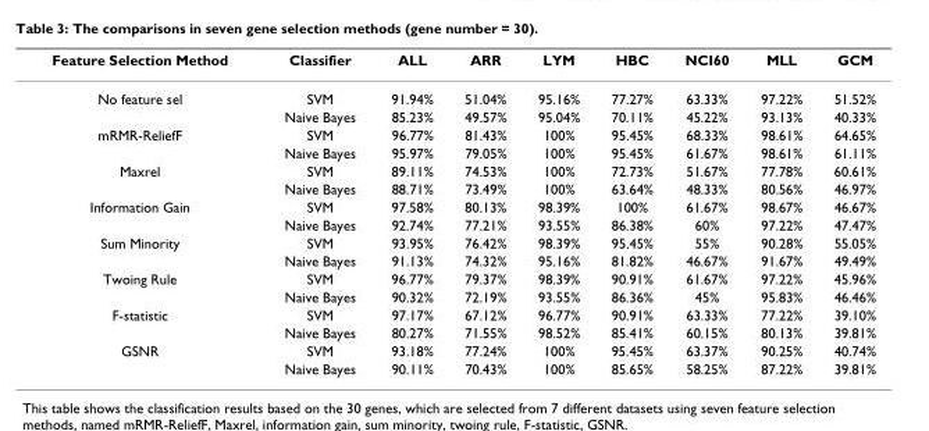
<table><thead><tr><td>Feature Selection Method</td><td>Classifier</td><td>ALL</td><td>ARR</td><td>LYM</td><td>HBC</td><td>NCI60</td><td>MLL</td><td>GCM</td></tr></thead><tbody><tr><td rowspan="2">No feature sel</td><td>SVM</td><td>91.94%</td><td>51.04%</td><td>95.16%</td><td>77.27%</td><td>63.33%</td><td>97.22%</td><td>51.52%</td></tr><tr><td>Naive Bayes</td><td>85.23%</td><td>49.57%</td><td>95.04%</td><td>70.11%</td><td>45.22%</td><td>93.13%</td><td>40.33%</td></tr><tr><td rowspan="2">mRMR-ReliefF</td><td>SVM</td><td>96.77%</td><td>81.43%</td><td>100%</td><td>95.45%</td><td>68.33%</td><td>98.61%</td><td>64.65%</td></tr><tr><td>Naive Bayes</td><td>95.97%</td><td>79.05%</td><td>100%</td><td>95.45%</td><td>61.67%</td><td>98.61%</td><td>61.11%</td></tr><tr><td rowspan="2">Maxrel</td><td>SVM</td><td>89.11%</td><td>74.53%</td><td>100%</td><td>72.73%</td><td>51.67%</td><td>77.78%</td><td>60.61%</td></tr><tr><td>Naive Bayes</td><td>88.71%</td><td>73.49%</td><td>100%</td><td>63.64%</td><td>48.33%</td><td>80.56%</td><td>46.97%</td></tr><tr><td rowspan="2">Information Gain</td><td>SVM</td><td>97.58%</td><td>80.13%</td><td>98.39%</td><td>100%</td><td>61.67%</td><td>98.67%</td><td>46.67%</td></tr><tr><td>Naive Bayes</td><td>92.74%</td><td>77.21%</td><td>93.55%</td><td>86.38%</td><td>60%</td><td>97.22%</td><td>47.47%</td></tr><tr><td rowspan="2">Sum Minority</td><td>SVM</td><td>93.95%</td><td>76.42%</td><td>98.39%</td><td>95.45%</td><td>55%</td><td>90.28%</td><td>55.05%</td></tr><tr><td>Naive Bayes</td><td>91.13%</td><td>74.32%</td><td>95.16%</td><td>81.82%</td><td>46.67%</td><td>91.67%</td><td>49.49%</td></tr><tr><td rowspan="2">Twoing Rule</td><td>SVM</td><td>96.77%</td><td>79.37%</td><td>98.39%</td><td>90.91%</td><td>61.67%</td><td>97.22%</td><td>45.96%</td></tr><tr><td>Naive Bayes</td><td>90.32%</td><td>72.19%</td><td>93.55%</td><td>86.36%</td><td>45%</td><td>95.83%</td><td>46.46%</td></tr><tr><td rowspan="2">F-statistic</td><td>SVM</td><td>97.17%</td><td>67.12%</td><td>96.77%</td><td>90.91%</td><td>63.33%</td><td>77.22%</td><td>39.10%</td></tr><tr><td>Naive Bayes</td><td>80.27%</td><td>71.55%</td><td>98.52%</td><td>85.41%</td><td>60.15%</td><td>80.13%</td><td>39.81%</td></tr><tr><td rowspan="2">GSNR</td><td>SVM</td><td>93.18%</td><td>77.24%</td><td>100%</td><td>95.45%</td><td>63.37%</td><td>90.25%</td><td>40.74%</td></tr><tr><td>Naive Bayes</td><td>90.11%</td><td>70.43%</td><td>100%</td><td>85.65%</td><td>58.25%</td><td>87.22%</td><td>39.81%</td></tr></tbody></table>